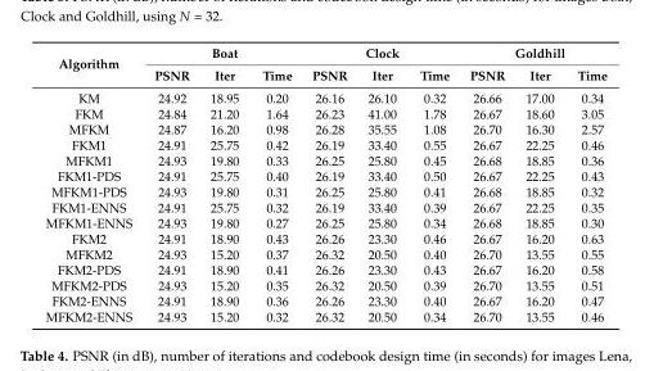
<table><thead><tr><td rowspan="2">Algorithm</td><td colspan="3">Boat</td><td colspan="3">Clock</td><td colspan="3">Goldhill</td></tr><tr><td>PSNR</td><td>Iter</td><td>Time</td><td>PSNR</td><td>Iter</td><td>Time</td><td>PSNR</td><td>Iter</td><td>Time</td></tr></thead><tbody><tr><td>KM</td><td>24.92</td><td>18.95</td><td>0.20</td><td>26.16</td><td>26.10</td><td>0.32</td><td>26.66</td><td>17.00</td><td>0.34</td></tr><tr><td>FKM</td><td>24.84</td><td>21.20</td><td>1.64</td><td>26.23</td><td>41.00</td><td>1.78</td><td>26.67</td><td>18.60</td><td>3.05</td></tr><tr><td>MFKM</td><td>24.87</td><td>16.20</td><td>0.98</td><td>26.28</td><td>35.55</td><td>1.08</td><td>26.70</td><td>16.30</td><td>2.57</td></tr><tr><td>FKM1</td><td>24.91</td><td>25.75</td><td>0.42</td><td>26.19</td><td>33.40</td><td>0.55</td><td>26.67</td><td>22.25</td><td>0.46</td></tr><tr><td>MFKM1</td><td>24.93</td><td>19.80</td><td>0.33</td><td>26.25</td><td>25.80</td><td>0.45</td><td>26.68</td><td>18.85</td><td>0.36</td></tr><tr><td>FKM1-PDS</td><td>24.91</td><td>25.75</td><td>0.40</td><td>26.19</td><td>33.40</td><td>0.50</td><td>26.67</td><td>22.25</td><td>0.43</td></tr><tr><td>MFKM1-PDS</td><td>24.93</td><td>19.80</td><td>0.31</td><td>26.25</td><td>25.80</td><td>0.41</td><td>26.68</td><td>18.85</td><td>0.32</td></tr><tr><td>FKM1-ENNS</td><td>24.91</td><td>25.75</td><td>0.32</td><td>26.19</td><td>33.40</td><td>0.39</td><td>26.67</td><td>22.25</td><td>0.35</td></tr><tr><td>MFKM1-ENNS</td><td>24.93</td><td>19.80</td><td>0.27</td><td>26.25</td><td>25.80</td><td>0.34</td><td>26.68</td><td>18.85</td><td>0.30</td></tr><tr><td>FKM2</td><td>24.91</td><td>18.90</td><td>0.43</td><td>26.26</td><td>23.30</td><td>0.46</td><td>26.67</td><td>16.20</td><td>0.63</td></tr><tr><td>MFKM2</td><td>24.93</td><td>15.20</td><td>0.37</td><td>26.32</td><td>20.50</td><td>0.40</td><td>26.70</td><td>13.55</td><td>0.55</td></tr><tr><td>FKM2-PDS</td><td>24.91</td><td>18.90</td><td>0.41</td><td>26.26</td><td>23.30</td><td>0.43</td><td>26.67</td><td>16.20</td><td>0.58</td></tr><tr><td>MFKM2-PDS</td><td>24.93</td><td>15.20</td><td>0.35</td><td>26.32</td><td>20.50</td><td>0.39</td><td>26.70</td><td>13.55</td><td>0.51</td></tr><tr><td>FKM2-ENNS</td><td>24.91</td><td>18.90</td><td>0.36</td><td>26.26</td><td>23.30</td><td>0.40</td><td>26.67</td><td>16.20</td><td>0.47</td></tr><tr><td>MFKM2-ENNS</td><td>24.93</td><td>15.20</td><td>0.32</td><td>26.32</td><td>20.50</td><td>0.34</td><td>26.70</td><td>13.55</td><td>0.46</td></tr></tbody></table>